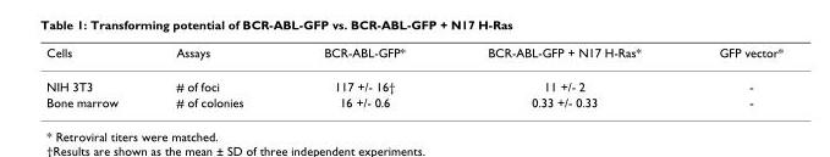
<table><thead><tr><td>Cells</td><td>Assays</td><td>BCR-ABL-GFP*</td><td>BCR-ABL-GFP + N17 H-Ras*</td><td>GFP vector*</td></tr></thead><tbody><tr><td>NIH 3T3</td><td># of foci</td><td>117 +/- 16†</td><td>11 +/- 2</td><td>-</td></tr><tr><td>Bone marrow</td><td># of colonies</td><td>16 +/- 0.6</td><td>0.33 +/- 0.33</td><td>-</td></tr></tbody></table>